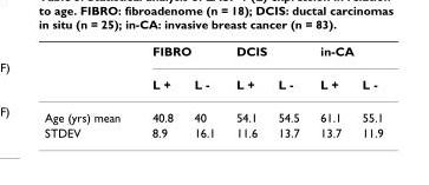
<table><thead><tr><td rowspan="2"></td><td colspan="2">FIBRO</td><td colspan="2">DCIS</td><td colspan="2">in-CA</td></tr><tr><td>L +</td><td>L -</td><td>L +</td><td>L -</td><td>L +</td><td>L -</td></tr></thead><tbody><tr><td>Age (yrs) mean</td><td>40.8</td><td>40</td><td>54.1</td><td>54.5</td><td>61.1</td><td>55.1</td></tr><tr><td>STDEV</td><td>8.9</td><td>16.1</td><td>11.6</td><td>13.7</td><td>13.7</td><td>11.9</td></tr></tbody></table>